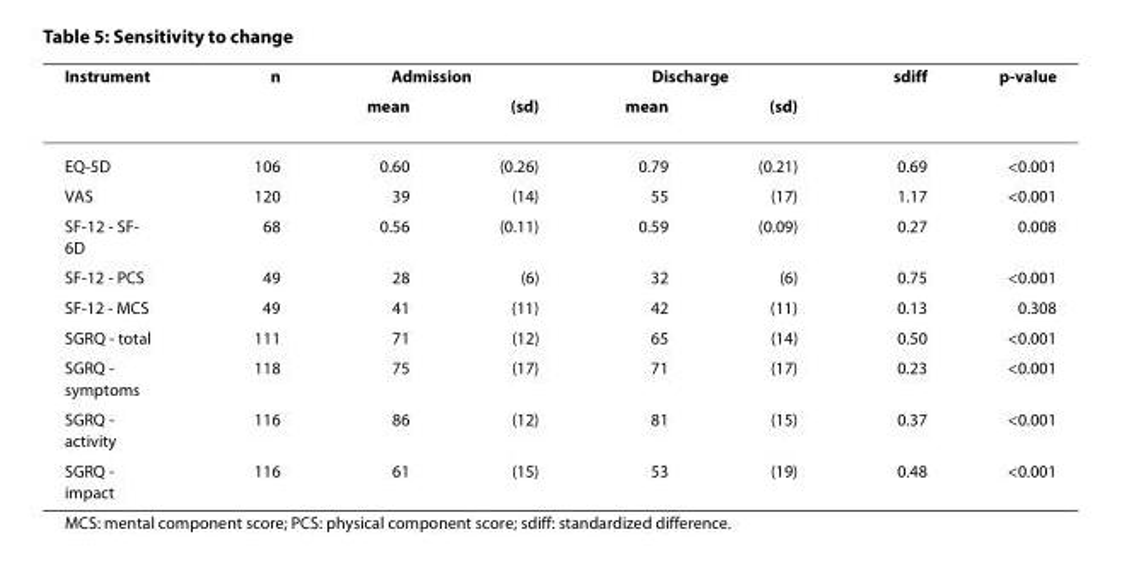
<table><thead><tr><td rowspan="2">Instrument</td><td rowspan="2">n</td><td colspan="2">Admission</td><td colspan="2">Discharge</td><td rowspan="2">sdiff</td><td rowspan="2">p-value</td></tr><tr><td>mean</td><td>(sd)</td><td>mean</td><td>(sd)</td></tr></thead><tbody><tr><td>EQ-5D</td><td>106</td><td>0.60</td><td>(0.26)</td><td>0.79</td><td>(0.21)</td><td>0.69</td><td>&lt;0.001</td></tr><tr><td>VAS</td><td>120</td><td>39</td><td>(14)</td><td>55</td><td>(17)</td><td>1.17</td><td>&lt;0.001</td></tr><tr><td>SF-12 - SF- 6D</td><td>68</td><td>0.56</td><td>(0.11)</td><td>0.59</td><td>(0.09)</td><td>0.27</td><td>0.008</td></tr><tr><td>SF-12 - PCS</td><td>49</td><td>28</td><td>(6)</td><td>32</td><td>(6)</td><td>0.75</td><td>&lt;0.001</td></tr><tr><td>SF-12 - MCS</td><td>49</td><td>41</td><td>(11)</td><td>42</td><td>(11)</td><td>0.13</td><td>0.308</td></tr><tr><td>SGRQ - total</td><td>111</td><td>71</td><td>(12)</td><td>65</td><td>(14)</td><td>0.50</td><td>&lt;0.001</td></tr><tr><td>SGRQ - symptoms</td><td>118</td><td>75</td><td>(17)</td><td>71</td><td>(17)</td><td>0.23</td><td>&lt;0.001</td></tr><tr><td>SGRQ - activity</td><td>116</td><td>86</td><td>(12)</td><td>81</td><td>(15)</td><td>0.37</td><td>&lt;0.001</td></tr><tr><td>SGRQ - impact</td><td>116</td><td>61</td><td>(15)</td><td>53</td><td>(19)</td><td>0.48</td><td>&lt;0.001</td></tr></tbody></table>